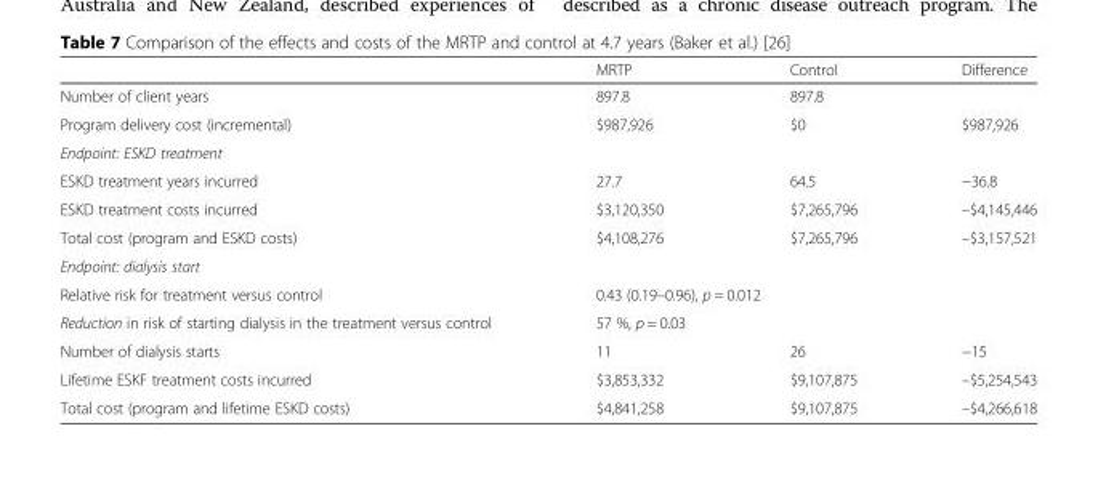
<table><thead><tr><td></td><td>MRTP</td><td>Control</td><td>Difference</td></tr></thead><tbody><tr><td>Number of client years</td><td>897.8</td><td>897.8</td><td></td></tr><tr><td>Program delivery cost (incremental)</td><td>$987,926</td><td>$0</td><td>$987,926</td></tr><tr><td colspan="4">Endpoint: ESKD treatment</td></tr><tr><td>ESKD treatment years incurred</td><td>27.7</td><td>64.5</td><td>−36.8</td></tr><tr><td>ESKD treatment costs incurred</td><td>$3,120,350</td><td>$7,265,796</td><td>–$4,145,446</td></tr><tr><td>Total cost (program and ESKD costs)</td><td>$4,108,276</td><td>$7,265,796</td><td>–$3,157,521</td></tr><tr><td colspan="4">Endpoint: dialysis start</td></tr><tr><td>Relative risk for treatment versus control</td><td colspan="2">0.43 (0.19–0.96), p = 0.012</td><td></td></tr><tr><td>Reduction in risk of starting dialysis in the treatment versus control</td><td>57 %, p = 0.03</td><td></td><td></td></tr><tr><td>Number of dialysis starts</td><td>11</td><td>26</td><td>−15</td></tr><tr><td>Lifetime ESKF treatment costs incurred</td><td>$3,853,332</td><td>$9,107,875</td><td>–$5,254,543</td></tr><tr><td>Total cost (program and lifetime ESKD costs)</td><td>$4,841,258</td><td>$9,107,875</td><td>–$4,266,618</td></tr></tbody></table>